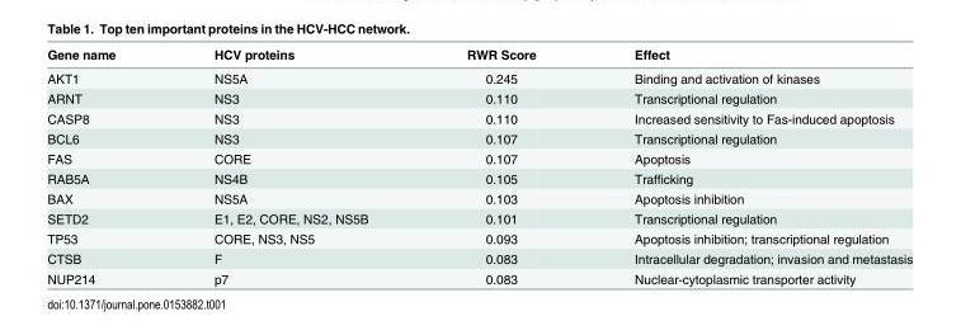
<table><thead><tr><td>Gene name</td><td>HCV proteins</td><td>RWR Score</td><td>Effect</td></tr></thead><tbody><tr><td>AKT1</td><td>NS5A</td><td>0.245</td><td>Binding and activation of kinases</td></tr><tr><td>ARNT</td><td>NS3</td><td>0.110</td><td>Transcriptional regulation</td></tr><tr><td>CASP8</td><td>NS3</td><td>0.110</td><td>Increased sensitivity to Fas-induced apoptosis</td></tr><tr><td>BCL6</td><td>NS3</td><td>0.107</td><td>Transcriptional regulation</td></tr><tr><td>FAS</td><td>CORE</td><td>0.107</td><td>Apoptosis</td></tr><tr><td>RAB5A</td><td>NS4B</td><td>0.105</td><td>Trafficking</td></tr><tr><td>BAX</td><td>NS5A</td><td>0.103</td><td>Apoptosis inhibition</td></tr><tr><td>SETD2</td><td>E1, E2, CORE, NS2, NS5B</td><td>0.101</td><td>Transcriptional regulation</td></tr><tr><td>TP53</td><td>CORE, NS3, NS5</td><td>0.093</td><td>Apoptosis inhibition; transcriptional regulation</td></tr><tr><td>CTSB</td><td>F</td><td>0.083</td><td>Intracellular degradation; invasion and metastasis</td></tr><tr><td>NUP214</td><td>p7</td><td>0.083</td><td>Nuclear-cytoplasmic transporter activity</td></tr></tbody></table>